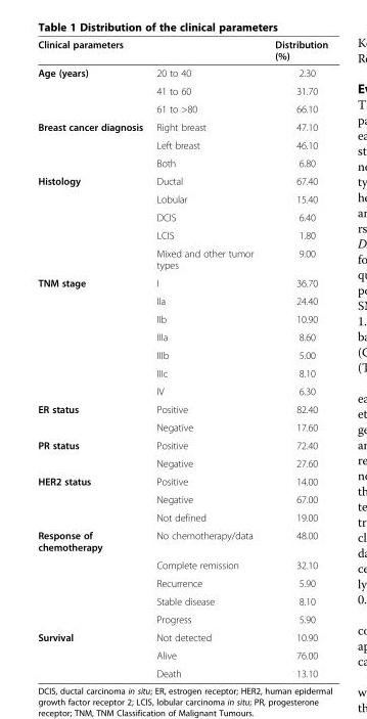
<table><thead><tr><td>Clinical parameters</td><td></td><td>Distribution (%)</td></tr></thead><tbody><tr><td rowspan="3">Age (years)</td><td>20 to 40</td><td>2.30</td></tr><tr><td>41 to 60</td><td>31.70</td></tr><tr><td>61 to &gt;80</td><td>66.10</td></tr><tr><td rowspan="3">Breast cancer diagnosis</td><td>Right breast</td><td>47.10</td></tr><tr><td>Left breast</td><td>46.10</td></tr><tr><td>Both</td><td>6.80</td></tr><tr><td rowspan="5">Histology</td><td>Ductal</td><td>67.40</td></tr><tr><td>Lobular</td><td>15.40</td></tr><tr><td>DCIS</td><td>6.40</td></tr><tr><td>LCIS</td><td>1.80</td></tr><tr><td>Mixed and other tumor types</td><td>9.00</td></tr><tr><td rowspan="7">TNM stage</td><td>I</td><td>36.70</td></tr><tr><td>IIa</td><td>24.40</td></tr><tr><td>IIb</td><td>10.90</td></tr><tr><td>IIIa</td><td>8.60</td></tr><tr><td>IIIb</td><td>5.00</td></tr><tr><td>IIIc</td><td>8.10</td></tr><tr><td>IV</td><td>6.30</td></tr><tr><td rowspan="2">ER status</td><td>Positive</td><td>82.40</td></tr><tr><td>Negative</td><td>17.60</td></tr><tr><td rowspan="2">PR status</td><td>Positive</td><td>72.40</td></tr><tr><td>Negative</td><td>27.60</td></tr><tr><td rowspan="3">HER2 status</td><td>Positive</td><td>14.00</td></tr><tr><td>Negative</td><td>67.00</td></tr><tr><td>Not defined</td><td>19.00</td></tr><tr><td rowspan="5">Response of chemotherapy</td><td>No chemotherapy/data</td><td>48.00</td></tr><tr><td>Complete remission</td><td>32.10</td></tr><tr><td>Recurrence</td><td>5.90</td></tr><tr><td>Stable disease</td><td>8.10</td></tr><tr><td>Progress</td><td>5.90</td></tr><tr><td rowspan="3">Survival</td><td>Not detected</td><td>10.90</td></tr><tr><td>Alive</td><td>76.00</td></tr><tr><td>Death</td><td>13.10</td></tr></tbody></table>